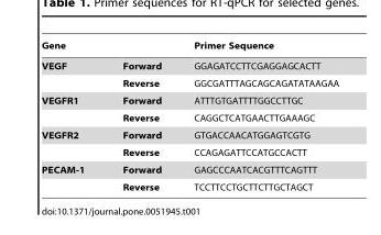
<table><thead><tr><td>Gene</td><td></td><td>Primer Sequence</td></tr></thead><tbody><tr><td rowspan="2">VEGF</td><td>Forward</td><td>GGAGATCCTTCGAGGAGCACTT</td></tr><tr><td>Reverse</td><td>GGCGATTTAGCAGCAGATATAAGAA</td></tr><tr><td rowspan="2">VEGFR1</td><td>Forward</td><td>ATTTGTGATTTTGGCCTTGC</td></tr><tr><td>Reverse</td><td>CAGGCTCATGAACTTGAAAGC</td></tr><tr><td rowspan="2">VEGFR2</td><td>Forward</td><td>GTGACCAACATGGAGTCGTG</td></tr><tr><td>Reverse</td><td>CCAGAGATTCCATGCCACTT</td></tr><tr><td rowspan="2">PECAM-1</td><td>Forward</td><td>GAGCCCAATCACGTTTCAGTTT</td></tr><tr><td>Reverse</td><td>TCCTTCCTGCTTCTTGCTAGCT</td></tr></tbody></table>